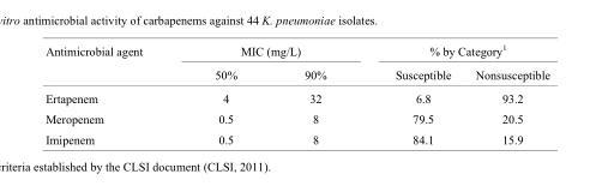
<table><thead><tr><td rowspan="2">Antimicrobial agent</td><td colspan="2">MIC (mg/L)</td><td colspan="2">% by Category<sup>1</sup></td></tr><tr><td>50%</td><td>90%</td><td>Susceptible</td><td>Nonsusceptible</td></tr></thead><tbody><tr><td>Ertapenem</td><td>4</td><td>32</td><td>6.8</td><td>93.2</td></tr><tr><td>Meropenem</td><td>0.5</td><td>8</td><td>79.5</td><td>20.5</td></tr><tr><td>Imipenem</td><td>0.5</td><td>8</td><td>84.1</td><td>15.9</td></tr></tbody></table>